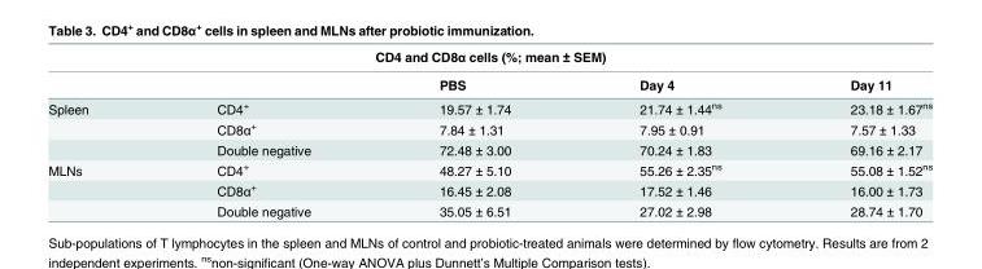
<table><thead><tr><td colspan="5">CD4 and CD8α cells (%; mean ± SEM)</td></tr><tr><td></td><td></td><td>PBS</td><td>Day 4</td><td>Day 11</td></tr></thead><tbody><tr><td rowspan="3">Spleen</td><td>CD4<sup>+</sup></td><td>19.57 ± 1.74</td><td>21.74 ± 1.44<sup>ns</sup></td><td>23.18 ± 1.67<sup>ns</sup></td></tr><tr><td>CD8α<sup>+</sup></td><td>7.84 ± 1.31</td><td>7.95 ± 0.91</td><td>7.57 ± 1.33</td></tr><tr><td>Double negative</td><td>72.48 ± 3.00</td><td>70.24 ± 1.83</td><td>69.16 ± 2.17</td></tr><tr><td rowspan="3">MLNs</td><td>CD4<sup>+</sup></td><td>48.27 ± 5.10</td><td>55.26 ± 2.35<sup>ns</sup></td><td>55.08 ± 1.52<sup>ns</sup></td></tr><tr><td>CD8α<sup>+</sup></td><td>16.45 ± 2.08</td><td>17.52 ± 1.46</td><td>16.00 ± 1.73</td></tr><tr><td>Double negative</td><td>35.05 ± 6.51</td><td>27.02 ± 2.98</td><td>28.74 ± 1.70</td></tr></tbody></table>